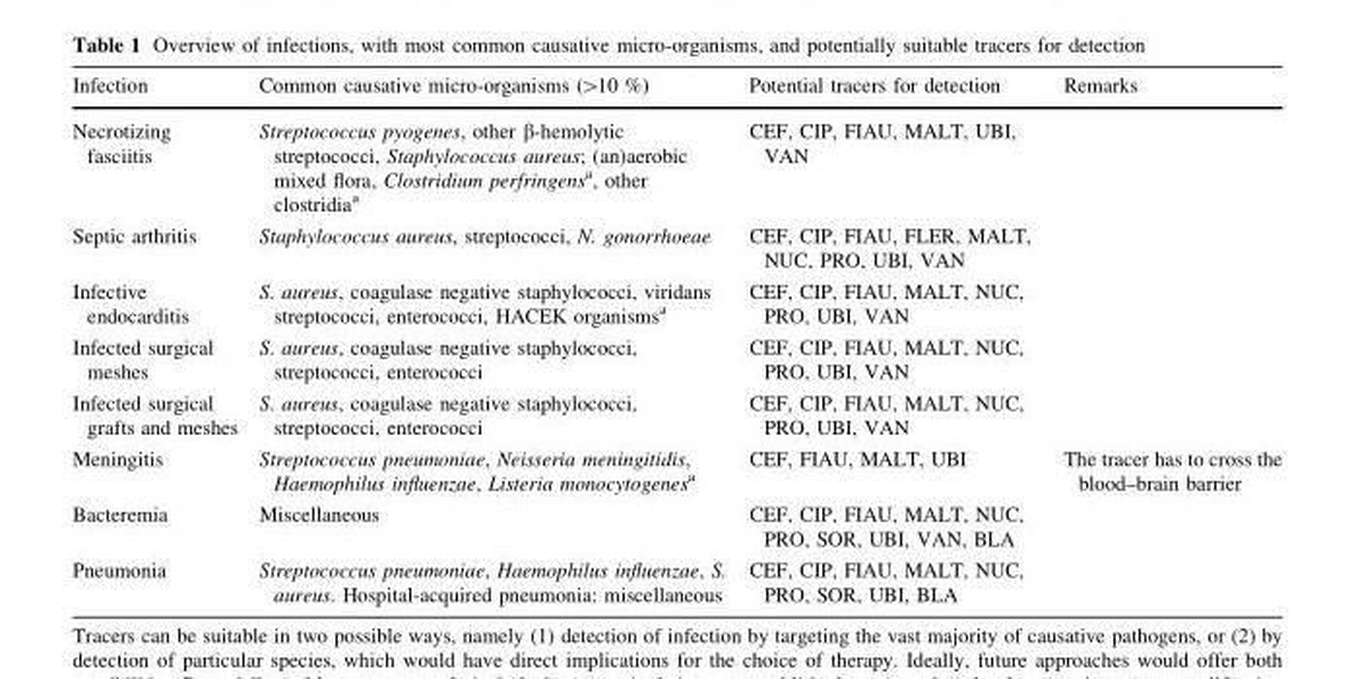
<table><thead><tr><td>Infection</td><td>Common causative micro-organisms (&gt;10 %)</td><td>Potential tracers for detection</td><td>Remarks</td></tr></thead><tbody><tr><td>Necrotizing fasciitis</td><td>Streptococcus pyogenes, other β-hemolytic streptococci, Staphylococcus aureus; (an)aerobic mixed flora, Clostridium perfringens<sup>a</sup>, other clostridia<sup>a</sup></td><td>CEF, CIP, FIAU, MALT, UBI, VAN</td><td></td></tr><tr><td>Septic arthritis</td><td>Staphylococcus aureus, streptococci, N. gonorrhoeae</td><td>CEF, CIP, FIAU, FLER, MALT, NUC, PRO, UBI, VAN</td><td></td></tr><tr><td>Infective endocarditis</td><td>S. aureus, coagulase negative staphylococci, viridans streptococci, enterococci, HACEK organisms<sup>a</sup></td><td>CEF, CIP, FIAU, MALT, NUC, PRO, UBI, VAN</td><td></td></tr><tr><td>Infected surgical meshes</td><td>S. aureus, coagulase negative staphylococci, streptococci, enterococci</td><td>CEF, CIP, FIAU, MALT, NUC, PRO, UBI, VAN</td><td></td></tr><tr><td>Infected surgical grafts and meshes</td><td>S. aureus, coagulase negative staphylococci, streptococci, enterococci</td><td>CEF, CIP, FIAU, MALT, NUC, PRO, UBI, VAN</td><td></td></tr><tr><td>Meningitis</td><td>Streptococcus pneumoniae, Neisseria meningitidis, Haemophilus influenzae, Listeria monocytogenes<sup>a</sup></td><td>CEF, FIAU, MALT, UBI</td><td>The tracer has to cross the blood–brain barrier</td></tr><tr><td>Bacteremia</td><td>Miscellaneous</td><td>CEF, CIP, FIAU, MALT, NUC, PRO, SOR, UBI, VAN, BLA</td><td></td></tr><tr><td>Pneumonia</td><td>Streptococcus pneumoniae, Haemophilus influenzae, S. aureus. Hospital-acquired pneumonia: miscellaneous</td><td>CEF, CIP, FIAU, MALT, NUC, PRO, SOR, UBI, BLA</td><td></td></tr></tbody></table>